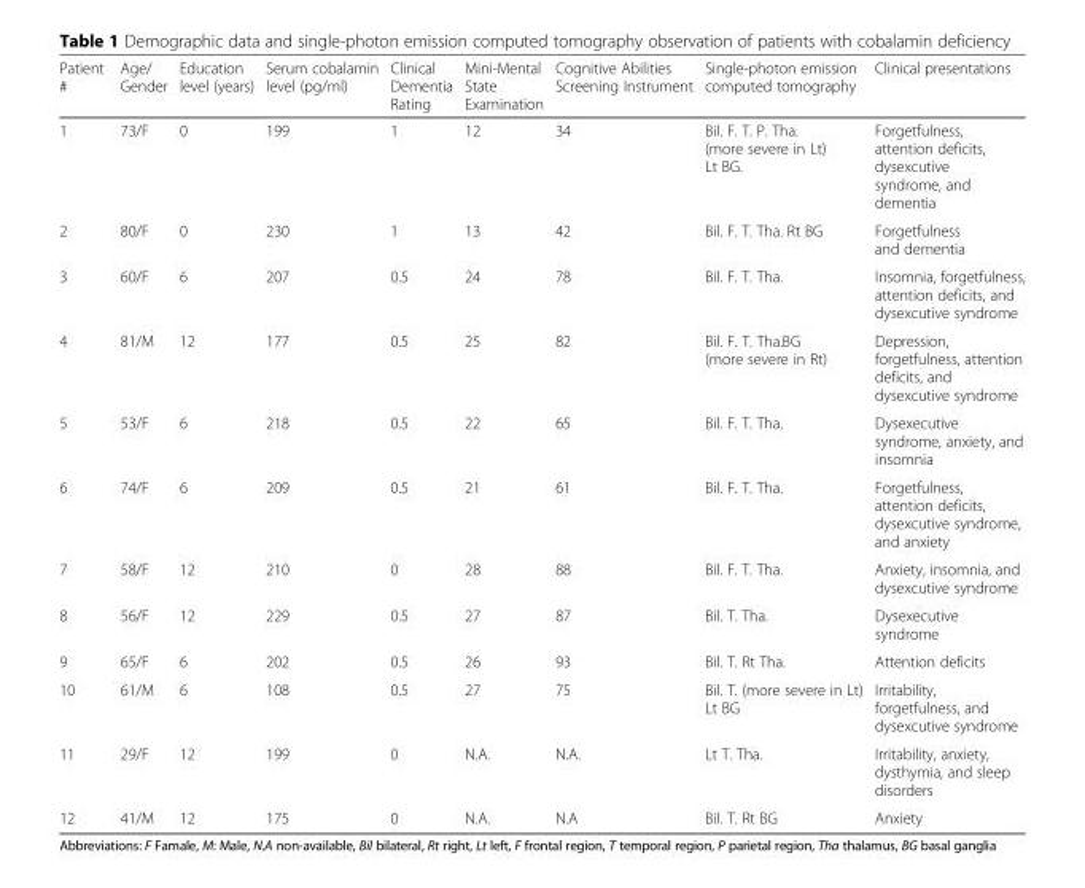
<table><thead><tr><td>Patient #</td><td>Age/ Gender</td><td>Education level (years)</td><td>Serum cobalamin level (pg/ml)</td><td>Clinical Dementia Rating</td><td>Mini-Mental State Examination</td><td>Cognitive Abilities Screening Instrument</td><td>Single-photon emission computed tomography</td><td>Clinical presentations</td></tr></thead><tbody><tr><td>1</td><td>73/F</td><td>0</td><td>199</td><td>1</td><td>12</td><td>34</td><td>Bil. F. T. P. Tha. (more severe in Lt) Lt BG.</td><td>Forgetfulness, attention deficits, dysexcutive syndrome, and dementia</td></tr><tr><td>2</td><td>80/F</td><td>0</td><td>230</td><td>1</td><td>13</td><td>42</td><td>Bil. F. T. Tha. Rt BG</td><td>Forgetfulness and dementia</td></tr><tr><td>3</td><td>60/F</td><td>6</td><td>207</td><td>0.5</td><td>24</td><td>78</td><td>Bil. F. T. Tha.</td><td>Insomnia, forgetfulness, attention deficits, and dysexcutive syndrome</td></tr><tr><td>4</td><td>81/M</td><td>12</td><td>177</td><td>0.5</td><td>25</td><td>82</td><td>Bil. F. T. Tha.BG (more severe in Rt)</td><td>Depression, forgetfulness, attention deficits, and dysexcutive syndrome</td></tr><tr><td>5</td><td>53/F</td><td>6</td><td>218</td><td>0.5</td><td>22</td><td>65</td><td>Bil. F. T. Tha.</td><td>Dysexecutive syndrome, anxiety, and insomnia</td></tr><tr><td>6</td><td>74/F</td><td>6</td><td>209</td><td>0.5</td><td>21</td><td>61</td><td>Bil. F. T. Tha.</td><td>Forgetfulness, attention deficits, dysexcutive syndrome, and anxiety</td></tr><tr><td>7</td><td>58/F</td><td>12</td><td>210</td><td>0</td><td>28</td><td>88</td><td>Bil. F. T. Tha.</td><td>Anxiety, insomnia, and dysexcutive syndrome</td></tr><tr><td>8</td><td>56/F</td><td>12</td><td>229</td><td>0.5</td><td>27</td><td>87</td><td>Bil. T. Tha.</td><td>Dysexecutive syndrome</td></tr><tr><td>9</td><td>65/F</td><td>6</td><td>202</td><td>0.5</td><td>26</td><td>93</td><td>Bil. T. Rt Tha.</td><td>Attention deficits</td></tr><tr><td>10</td><td>61/M</td><td>6</td><td>108</td><td>0.5</td><td>27</td><td>75</td><td>Bil. T. (more severe in Lt) Lt BG</td><td>Irritability, forgetfulness, and dysexcutive syndrome</td></tr><tr><td>11</td><td>29/F</td><td>12</td><td>199</td><td>0</td><td>N.A.</td><td>N.A.</td><td>Lt T. Tha.</td><td>Irritability, anxiety, dysthymia, and sleep disorders</td></tr><tr><td>12</td><td>41/M</td><td>12</td><td>175</td><td>0</td><td>N.A.</td><td>N.A</td><td>Bil. T. Rt BG</td><td>Anxiety</td></tr></tbody></table>